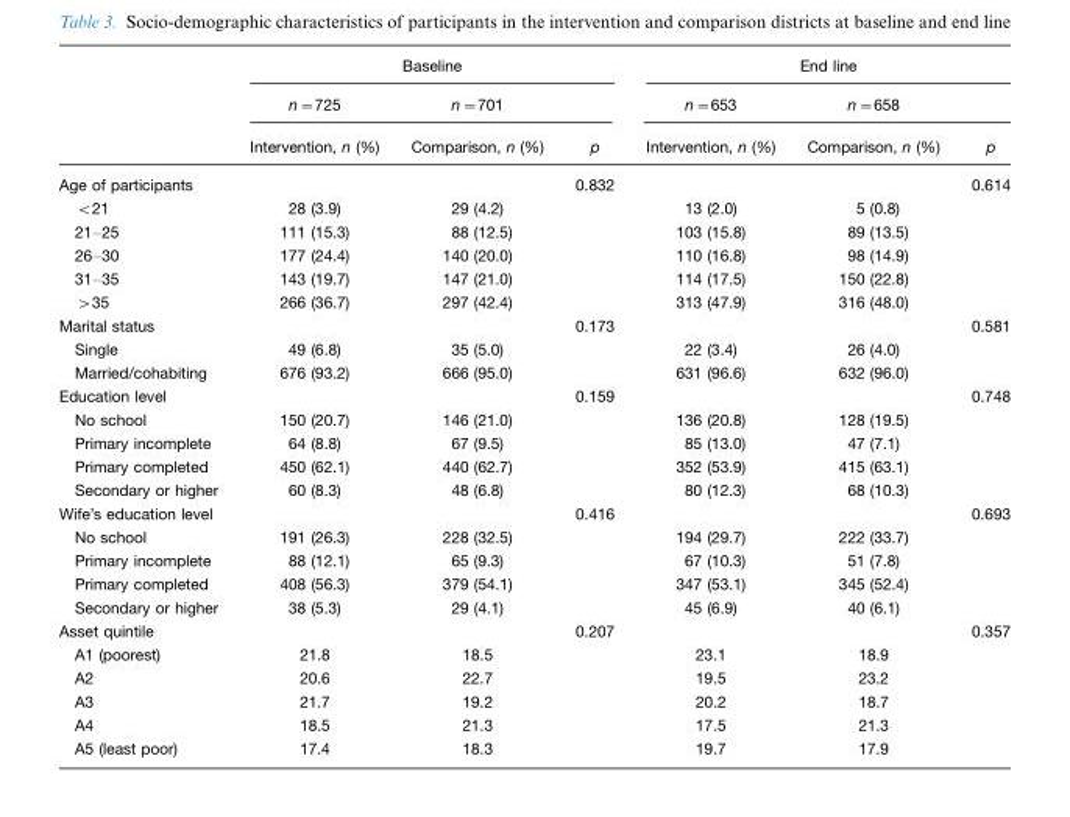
<table><thead><tr><td rowspan="3"></td><td colspan="3">Baseline</td><td colspan="3">End line</td></tr><tr><td rowspan="2">n=725 Intervention, n (%)</td><td rowspan="2">n=701 Comparison, n (%)</td><td rowspan="2">p</td><td rowspan="2">n=653 Intervention, n (%)</td><td rowspan="2">n=658 Comparison, n (%)</td><td rowspan="2">p</td></tr><tr></tr></thead><tbody><tr><td>Age of participants</td><td></td><td></td><td>0.832</td><td></td><td></td><td>0.614</td></tr><tr><td>&lt;21</td><td>28 (3.9)</td><td>29 (4.2)</td><td></td><td>13 (2.0)</td><td>5 (0.8)</td><td></td></tr><tr><td>21–25</td><td>111 (15.3)</td><td>88 (12.5)</td><td></td><td>103 (15.8)</td><td>89 (13.5)</td><td></td></tr><tr><td>26–30</td><td>177 (24.4)</td><td>140 (20.0)</td><td></td><td>110 (16.8)</td><td>98 (14.9)</td><td></td></tr><tr><td>31–35</td><td>143 (19.7)</td><td>147 (21.0)</td><td></td><td>114 (17.5)</td><td>150 (22.8)</td><td></td></tr><tr><td>&gt;35</td><td>266 (36.7)</td><td>297 (42.4)</td><td></td><td>313 (47.9)</td><td>316 (48.0)</td><td></td></tr><tr><td>Marital status</td><td></td><td></td><td>0.173</td><td></td><td></td><td>0.581</td></tr><tr><td>Single</td><td>49 (6.8)</td><td>35 (5.0)</td><td></td><td>22 (3.4)</td><td>26 (4.0)</td><td></td></tr><tr><td>Married/cohabiting</td><td>676 (93.2)</td><td>666 (95.0)</td><td></td><td>631 (96.6)</td><td>632 (96.0)</td><td></td></tr><tr><td>Education level</td><td></td><td></td><td>0.159</td><td></td><td></td><td>0.748</td></tr><tr><td>No school</td><td>150 (20.7)</td><td>146 (21.0)</td><td></td><td>136 (20.8)</td><td>128 (19.5)</td><td></td></tr><tr><td>Primary incomplete</td><td>64 (8.8)</td><td>67 (9.5)</td><td></td><td>85 (13.0)</td><td>47 (7.1)</td><td></td></tr><tr><td>Primary completed</td><td>450 (62.1)</td><td>440 (62.7)</td><td></td><td>352 (53.9)</td><td>415 (63.1)</td><td></td></tr><tr><td>Secondary or higher</td><td>60 (8.3)</td><td>48 (6.8)</td><td></td><td>80 (12.3)</td><td>68 (10.3)</td><td></td></tr><tr><td>Wife’s education level</td><td></td><td></td><td>0.416</td><td></td><td></td><td>0.693</td></tr><tr><td>No school</td><td>191 (26.3)</td><td>228 (32.5)</td><td></td><td>194 (29.7)</td><td>222 (33.7)</td><td></td></tr><tr><td>Primary incomplete</td><td>88 (12.1)</td><td>65 (9.3)</td><td></td><td>67 (10.3)</td><td>51 (7.8)</td><td></td></tr><tr><td>Primary completed</td><td>408 (56.3)</td><td>379 (54.1)</td><td></td><td>347 (53.1)</td><td>345 (52.4)</td><td></td></tr><tr><td>Secondary or higher</td><td>38 (5.3)</td><td>29 (4.1)</td><td></td><td>45 (6.9)</td><td>40 (6.1)</td><td></td></tr><tr><td>Asset quintile</td><td></td><td></td><td>0.207</td><td></td><td></td><td>0.357</td></tr><tr><td>A1 (poorest)</td><td>21.8</td><td>18.5</td><td></td><td>23.1</td><td>18.9</td><td></td></tr><tr><td>A2</td><td>20.6</td><td>22.7</td><td></td><td>19.5</td><td>23.2</td><td></td></tr><tr><td>A3</td><td>21.7</td><td>19.2</td><td></td><td>20.2</td><td>18.7</td><td></td></tr><tr><td>A4</td><td>18.5</td><td>21.3</td><td></td><td>17.5</td><td>21.3</td><td></td></tr><tr><td>A5 (least poor)</td><td>17.4</td><td>18.3</td><td></td><td>19.7</td><td>17.9</td><td></td></tr></tbody></table>